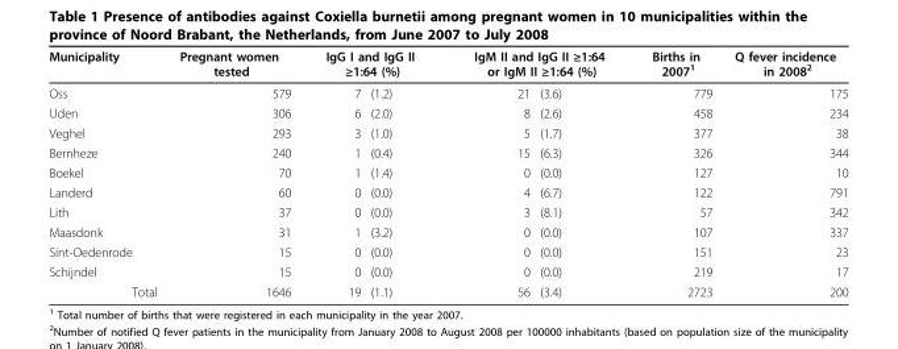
<table><thead><tr><td rowspan="2">Municipality Oss</td><td rowspan="2">Pregnant women tested 579</td><td colspan="2">IgG I and IgG II ≥1:64 (%)</td><td colspan="2">IgM II and IgG II ≥1:64 or IgM II ≥1:64 (%)</td><td rowspan="2">Births in 2007<sup>1</sup> 779</td><td rowspan="2">Q fever incidence in 2008<sup>2</sup> 175</td></tr><tr><td>7</td><td>(1.2)</td><td>21</td><td>(3.6)</td></tr></thead><tbody><tr><td>Uden</td><td>306</td><td>6</td><td>(2.0)</td><td>8</td><td>(2.6)</td><td>458</td><td>234</td></tr><tr><td>Veghel</td><td>293</td><td>3</td><td>(1.0)</td><td>5</td><td>(1.7)</td><td>377</td><td>38</td></tr><tr><td>Bernheze</td><td>240</td><td>1</td><td>(0.4)</td><td>15</td><td>(6.3)</td><td>326</td><td>344</td></tr><tr><td>Boekel</td><td>70</td><td>1</td><td>(1.4)</td><td>0</td><td>(0.0)</td><td>127</td><td>10</td></tr><tr><td>Landerd</td><td>60</td><td>0</td><td>(0.0)</td><td>4</td><td>(6.7)</td><td>122</td><td>791</td></tr><tr><td>Lith</td><td>37</td><td>0</td><td>(0.0)</td><td>3</td><td>(8.1)</td><td>57</td><td>342</td></tr><tr><td>Maasdonk</td><td>31</td><td>1</td><td>(3.2)</td><td>0</td><td>(0.0)</td><td>107</td><td>337</td></tr><tr><td>Sint-Oedenrode</td><td>15</td><td>0</td><td>(0.0)</td><td>0</td><td>(0.0)</td><td>151</td><td>23</td></tr><tr><td>Schijndel</td><td>15</td><td>0</td><td>(0.0)</td><td>0</td><td>(0.0)</td><td>219</td><td>17</td></tr><tr><td>Total</td><td>1646</td><td>19</td><td>(1.1)</td><td>56</td><td>(3.4)</td><td>2723</td><td>200</td></tr></tbody></table>